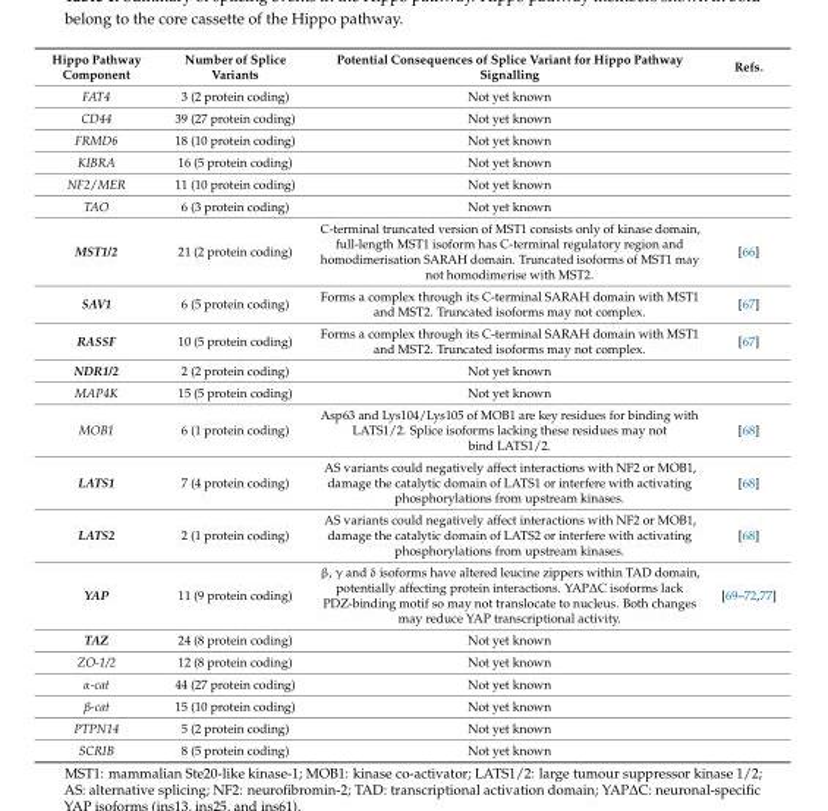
<table><thead><tr><td>Hippo Pathway Component</td><td>Number of Splice Variants</td><td>Potential Consequences of Splice Variant for Hippo Pathway Signalling</td><td>Refs.</td></tr></thead><tbody><tr><td>FAT4</td><td>3 (2 protein coding)</td><td>Not yet known</td><td></td></tr><tr><td>CD44</td><td>39 (27 protein coding)</td><td>Not yet known</td><td></td></tr><tr><td>FRMD6</td><td>18 (10 protein coding)</td><td>Not yet known</td><td></td></tr><tr><td>KIBRA</td><td>16 (5 protein coding)</td><td>Not yet known</td><td></td></tr><tr><td>NF2/MER</td><td>11 (10 protein coding)</td><td>Not yet known</td><td></td></tr><tr><td>TAO</td><td>6 (3 protein coding)</td><td>Not yet known</td><td></td></tr><tr><td>MST1/2</td><td>21 (2 protein coding)</td><td>C-terminal truncated version of MST1 consists only of kinase domain, full-length MST1 isoform has C-terminal regulatory region and homodimerisation SARAH domain. Truncated isoforms of MST1 may not homodimerise with MST2.</td><td>[66]</td></tr><tr><td>SAV1</td><td>6 (5 protein coding)</td><td>Forms a complex through its C-terminal SARAH domain with MST1 and MST2. Truncated isoforms may not complex.</td><td>[67]</td></tr><tr><td>RASSF</td><td>10 (5 protein coding)</td><td>Forms a complex through its C-terminal SARAH domain with MST1 and MST2. Truncated isoforms may not complex.</td><td>[67]</td></tr><tr><td>NDR1/2</td><td>2 (2 protein coding)</td><td>Not yet known</td><td></td></tr><tr><td>MAP4K</td><td>15 (5 protein coding)</td><td>Not yet known</td><td></td></tr><tr><td>MOB1</td><td>6 (1 protein coding)</td><td>Asp63 and Lys104/Lys105 of MOB1 are key residues for binding with LATS1/2. Splice isoforms lacking these residues may not bind LATS1/2.</td><td>[68]</td></tr><tr><td>LATS1</td><td>7 (4 protein coding)</td><td>AS variants could negatively affect interactions with NF2 or MOB1, damage the catalytic domain of LATS1 or interfere with activating phosphorylations from upstream kinases.</td><td>[68]</td></tr><tr><td>LATS2</td><td>2 (1 protein coding)</td><td>AS variants could negatively affect interactions with NF2 or MOB1, damage the catalytic domain of LATS2 or interfere with activating phosphorylations from upstream kinases.</td><td>[68]</td></tr><tr><td>YAP</td><td>11 (9 protein coding)</td><td>β, γ and δ isoforms have altered leucine zippers within TAD domain, potentially affecting protein interactions. YAP∆C isoforms lack PDZ-binding motif so may not translocate to nucleus. Both changes may reduce YAP transcriptional activity.</td><td>[69–72,77]</td></tr><tr><td>TAZ</td><td>24 (8 protein coding)</td><td>Not yet known</td><td></td></tr><tr><td>ZO-1/2</td><td>12 (8 protein coding)</td><td>Not yet known</td><td></td></tr><tr><td>α-cat</td><td>44 (27 protein coding)</td><td>Not yet known</td><td></td></tr><tr><td>β-cat</td><td>15 (10 protein coding)</td><td>Not yet known</td><td></td></tr><tr><td>PTPN14</td><td>5 (2 protein coding)</td><td>Not yet known</td><td></td></tr><tr><td>SCRIB</td><td>8 (5 protein coding)</td><td>Not yet known</td><td></td></tr></tbody></table>